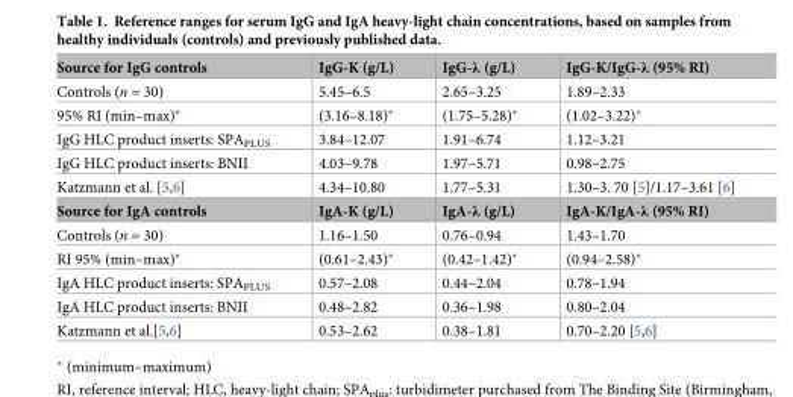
<table><tbody><tr><td>Source for IgG controls</td><td>IgG-K (g/L)</td><td>IgG-λ (g/L)</td><td>IgG-K/IgG-λ (95% RI)</td></tr><tr><td>Controls (n = 30)</td><td>5.45–6.5</td><td>2.65–3.25</td><td>1.89–2.33</td></tr><tr><td>95% RI (min–max)*</td><td>(3.16–8.18)*</td><td>(1.75–5.28)*</td><td>(1.02–3.22)*</td></tr><tr><td>IgG HLC product inserts: SPA<sub>PLUS</sub></td><td>3.84–12.07</td><td>1.91–6.74</td><td>1.12–3.21</td></tr><tr><td>IgG HLC product inserts: BNII</td><td>4.03–9.78</td><td>1.97–5.71</td><td>0.98–2.75</td></tr><tr><td>Katzmann et al. [5,6]</td><td>4.34–10.80</td><td>1.77–5.31</td><td>1.30–3. 70 [5]/1.17–3.61 [6]</td></tr><tr><td>Source for IgA controls</td><td>IgA-K (g/L)</td><td>IgA-λ (g/L)</td><td>IgA-K/IgA-λ (95% RI)</td></tr><tr><td>Controls (n = 30)</td><td>1.16–1.50</td><td>0.76–0.94</td><td>1.43–1.70</td></tr><tr><td>RI 95% (min–max)*</td><td>(0.61–2.43)*</td><td>(0.42–1.42)*</td><td>(0.94–2.58)*</td></tr><tr><td>IgA HLC product inserts: SPA<sub>PLUS</sub></td><td>0.57–2.08</td><td>0.44–2.04</td><td>0.78–1.94</td></tr><tr><td>IgA HLC product inserts: BNII</td><td>0.48–2.82</td><td>0.36–1.98</td><td>0.80–2.04</td></tr><tr><td>Katzmann et al.[5,6]</td><td>0.53–2.62</td><td>0.38–1.81</td><td>0.70–2.20 [5,6]</td></tr></tbody></table>